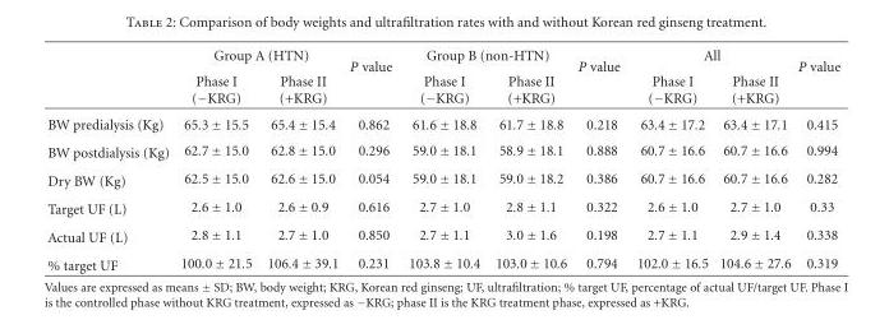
<table><thead><tr><td rowspan="2"></td><td colspan="2">Group A (HTN)</td><td rowspan="2">P value</td><td colspan="2">Group B (non-HTN)</td><td rowspan="2">P value</td><td colspan="2">All</td><td rowspan="2">P value</td></tr><tr><td>Phase I (−KRG)</td><td>Phase II (+KRG)</td><td>Phase I (−KRG)</td><td>Phase II (+KRG)</td><td>Phase I (−KRG)</td><td>Phase II (+KRG)</td></tr></thead><tbody><tr><td>BW predialysis (Kg)</td><td>65.3 ± 15.5</td><td>65.4 ± 15.4</td><td>0.862</td><td>61.6 ± 18.8</td><td>61.7 ± 18.8</td><td>0.218</td><td>63.4 ± 17.2</td><td>63.4 ± 17.1</td><td>0.415</td></tr><tr><td>BW postdialysis (Kg)</td><td>62.7 ± 15.0</td><td>62.8 ± 15.0</td><td>0.296</td><td>59.0 ± 18.1</td><td>58.9 ± 18.1</td><td>0.888</td><td>60.7 ± 16.6</td><td>60.7 ± 16.6</td><td>0.994</td></tr><tr><td>Dry BW (Kg)</td><td>62.5 ± 15.0</td><td>62.6 ± 15.0</td><td>0.054</td><td>59.0 ± 18.1</td><td>59.0 ± 18.2</td><td>0.386</td><td>60.7 ± 16.6</td><td>60.7 ± 16.6</td><td>0.282</td></tr><tr><td>Target UF (L)</td><td>2.6 ± 1.0</td><td>2.6 ± 0.9</td><td>0.616</td><td>2.7 ± 1.0</td><td>2.8 ± 1.1</td><td>0.322</td><td>2.6 ± 1.0</td><td>2.7 ± 1.0</td><td>0.33</td></tr><tr><td>Actual UF (L)</td><td>2.8 ± 1.1</td><td>2.7 ± 1.0</td><td>0.850</td><td>2.7 ± 1.1</td><td>3.0 ± 1.6</td><td>0.198</td><td>2.7 ± 1.1</td><td>2.9 ± 1.4</td><td>0.338</td></tr><tr><td>% target UF</td><td>100.0 ± 21.5</td><td>106.4 ± 39.1</td><td>0.231</td><td>103.8 ± 10.4</td><td>103.0 ± 10.6</td><td>0.794</td><td>102.0 ± 16.5</td><td>104.6 ± 27.6</td><td>0.319</td></tr></tbody></table>